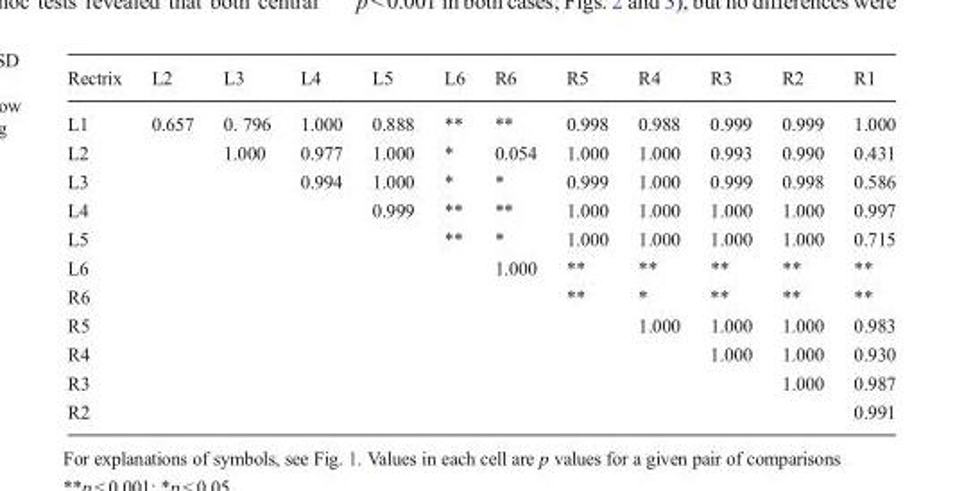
<table><thead><tr><td>Rectrix</td><td>L2</td><td>L3</td><td>L4</td><td>L5</td><td>L6</td><td>R6</td><td>R5</td><td>R4</td><td>R3</td><td>R2</td><td>R1</td></tr></thead><tbody><tr><td>L1</td><td>0.657</td><td>0. 796</td><td>1.000</td><td>0.888</td><td>**</td><td>**</td><td>0.998</td><td>0.988</td><td>0.999</td><td>0.999</td><td>1.000</td></tr><tr><td>L2</td><td></td><td>1.000</td><td>0.977</td><td>1.000</td><td>*</td><td>0.054</td><td>1.000</td><td>1.000</td><td>0.993</td><td>0.990</td><td>0.431</td></tr><tr><td>L3</td><td></td><td></td><td>0.994</td><td>1.000</td><td>*</td><td>*</td><td>0.999</td><td>1.000</td><td>0.999</td><td>0.998</td><td>0.586</td></tr><tr><td>L4</td><td></td><td></td><td></td><td>0.999</td><td>**</td><td>**</td><td>1.000</td><td>1.000</td><td>1.000</td><td>1.000</td><td>0.997</td></tr><tr><td>L5</td><td></td><td></td><td></td><td></td><td>**</td><td>*</td><td>1.000</td><td>1.000</td><td>1.000</td><td>1.000</td><td>0.715</td></tr><tr><td>L6</td><td></td><td></td><td></td><td></td><td></td><td>1.000</td><td>**</td><td>**</td><td>**</td><td>**</td><td>**</td></tr><tr><td>R6</td><td></td><td></td><td></td><td></td><td></td><td></td><td>**</td><td>*</td><td>**</td><td>**</td><td>**</td></tr><tr><td>R5</td><td></td><td></td><td></td><td></td><td></td><td></td><td></td><td>1.000</td><td>1.000</td><td>1.000</td><td>0.983</td></tr><tr><td>R4</td><td></td><td></td><td></td><td></td><td></td><td></td><td></td><td></td><td>1.000</td><td>1.000</td><td>0.930</td></tr><tr><td>R3</td><td></td><td></td><td></td><td></td><td></td><td></td><td></td><td></td><td></td><td>1.000</td><td>0.987</td></tr><tr><td>R2</td><td></td><td></td><td></td><td></td><td></td><td></td><td></td><td></td><td></td><td></td><td>0.991</td></tr></tbody></table>